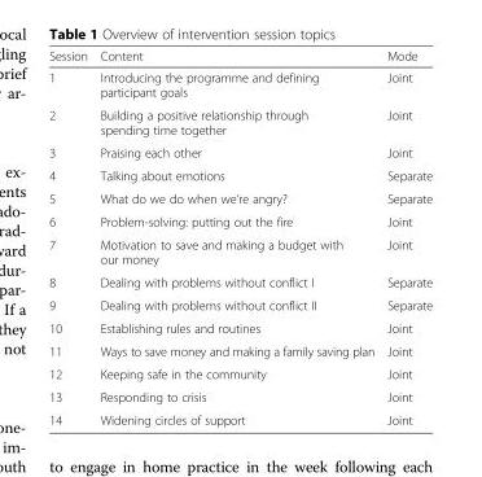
<table><thead><tr><td>Session</td><td>Content</td><td>Mode</td></tr></thead><tbody><tr><td>1</td><td>Introducing the programme and defining participant goals</td><td>Joint</td></tr><tr><td>2</td><td>Building a positive relationship through spending time together</td><td>Joint</td></tr><tr><td>3</td><td>Praising each other</td><td>Joint</td></tr><tr><td>4</td><td>Talking about emotions</td><td>Separate</td></tr><tr><td>5</td><td>What do we do when we’re angry?</td><td>Separate</td></tr><tr><td>6</td><td>Problem-solving: putting out the fire</td><td>Joint</td></tr><tr><td>7</td><td>Motivation to save and making a budget with our money</td><td>Joint</td></tr><tr><td>8</td><td>Dealing with problems without conflict I</td><td>Separate</td></tr><tr><td>9</td><td>Dealing with problems without conflict II</td><td>Separate</td></tr><tr><td>10</td><td>Establishing rules and routines</td><td>Joint</td></tr><tr><td>11</td><td>Ways to save money and making a family saving plan</td><td>Joint</td></tr><tr><td>12</td><td>Keeping safe in the community</td><td>Joint</td></tr><tr><td>13</td><td>Responding to crisis</td><td>Joint</td></tr><tr><td>14</td><td>Widening circles of support</td><td>Joint</td></tr></tbody></table>